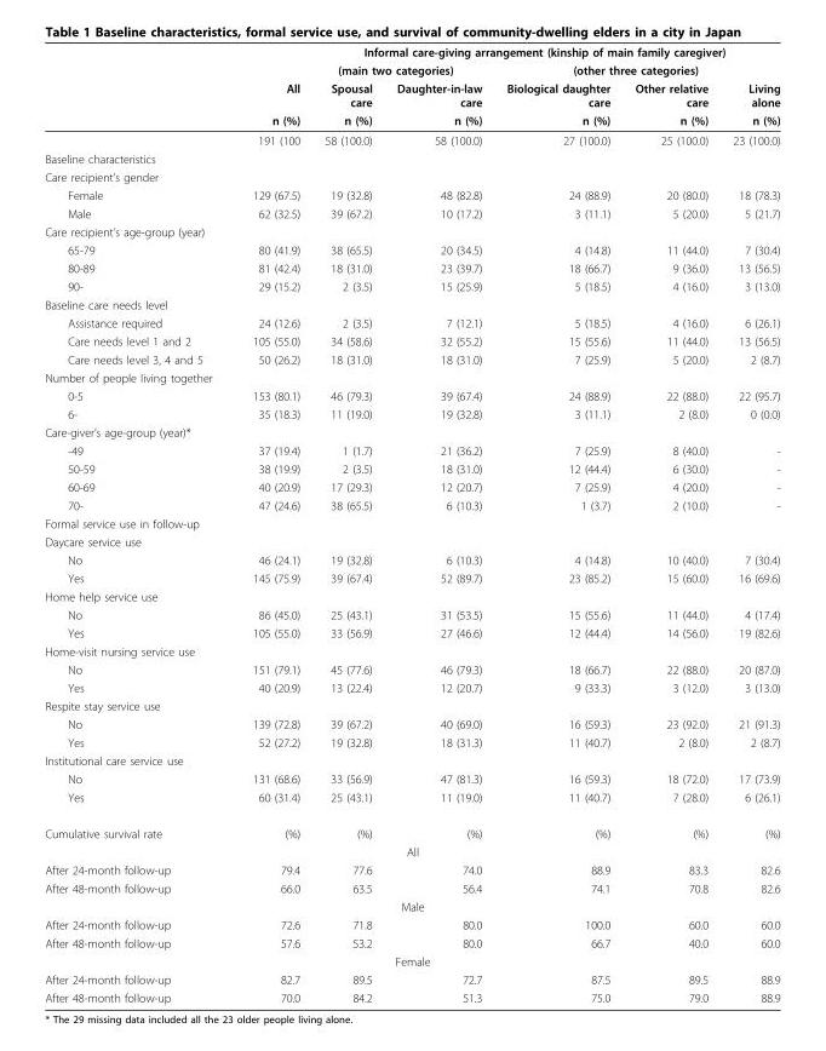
<table><thead><tr><td rowspan="4"></td><td rowspan="4">All n (%)</td><td colspan="5">Informal care-giving arrangement (kinship of main family caregiver)</td></tr><tr><td colspan="2">(main two categories)</td><td colspan="3">(other three categories)</td></tr><tr><td rowspan="2">Spousal care n (%)</td><td rowspan="2">Daughter-in-law care n (%)</td><td rowspan="2">Biological daughter care n (%)</td><td rowspan="2">Other relative care n (%)</td><td rowspan="2">Living alone n (%)</td></tr><tr></tr></thead><tbody><tr><td></td><td>191 (100</td><td>58 (100.0)</td><td>58 (100.0)</td><td>27 (100.0)</td><td>25 (100.0)</td><td>23 (100.0)</td></tr><tr><td colspan="7">Baseline characteristics</td></tr><tr><td colspan="7">Care recipient’s gender</td></tr><tr><td>Female</td><td>129 (67.5)</td><td>19 (32.8)</td><td>48 (82.8)</td><td>24 (88.9)</td><td>20 (80.0)</td><td>18 (78.3)</td></tr><tr><td>Male</td><td>62 (32.5)</td><td>39 (67.2)</td><td>10 (17.2)</td><td>3 (11.1)</td><td>5 (20.0)</td><td>5 (21.7)</td></tr><tr><td colspan="7">Care recipient’s age-group (year)</td></tr><tr><td>65-79</td><td>80 (41.9)</td><td>38 (65.5)</td><td>20 (34.5)</td><td>4 (14.8)</td><td>11 (44.0)</td><td>7 (30.4)</td></tr><tr><td>80-89</td><td>81 (42.4)</td><td>18 (31.0)</td><td>23 (39.7)</td><td>18 (66.7)</td><td>9 (36.0)</td><td>13 (56.5)</td></tr><tr><td>90-</td><td>29 (15.2)</td><td>2 (3.5)</td><td>15 (25.9)</td><td>5 (18.5)</td><td>4 (16.0)</td><td>3 (13.0)</td></tr><tr><td colspan="7">Baseline care needs level</td></tr><tr><td>Assistance required</td><td>24 (12.6)</td><td>2 (3.5)</td><td>7 (12.1)</td><td>5 (18.5)</td><td>4 (16.0)</td><td>6 (26.1)</td></tr><tr><td>Care needs level 1 and 2</td><td>105 (55.0)</td><td>34 (58.6)</td><td>32 (55.2)</td><td>15 (55.6)</td><td>11 (44.0)</td><td>13 (56.5)</td></tr><tr><td>Care needs level 3, 4 and 5</td><td>50 (26.2)</td><td>18 (31.0)</td><td>18 (31.0)</td><td>7 (25.9)</td><td>5 (20.0)</td><td>2 (8.7)</td></tr><tr><td colspan="7">Number of people living together</td></tr><tr><td>0-5</td><td>153 (80.1)</td><td>46 (79.3)</td><td>39 (67.4)</td><td>24 (88.9)</td><td>22 (88.0)</td><td>22 (95.7)</td></tr><tr><td>6-</td><td>35 (18.3)</td><td>11 (19.0)</td><td>19 (32.8)</td><td>3 (11.1)</td><td>2 (8.0)</td><td>0 (0.0)</td></tr><tr><td colspan="7">Care-giver’s age-group (year)*</td></tr><tr><td>-49</td><td>37 (19.4)</td><td>1 (1.7)</td><td>21 (36.2)</td><td>7 (25.9)</td><td>8 (40.0)</td><td>-</td></tr><tr><td>50-59</td><td>38 (19.9)</td><td>2 (3.5)</td><td>18 (31.0)</td><td>12 (44.4)</td><td>6 (30.0)</td><td>-</td></tr><tr><td>60-69</td><td>40 (20.9)</td><td>17 (29.3)</td><td>12 (20.7)</td><td>7 (25.9)</td><td>4 (20.0)</td><td>-</td></tr><tr><td>70-</td><td>47 (24.6)</td><td>38 (65.5)</td><td>6 (10.3)</td><td>1 (3.7)</td><td>2 (10.0)</td><td>-</td></tr><tr><td colspan="7">Formal service use in follow-up</td></tr><tr><td colspan="7">Daycare service use</td></tr><tr><td>No</td><td>46 (24.1)</td><td>19 (32.8)</td><td>6 (10.3)</td><td>4 (14.8)</td><td>10 (40.0)</td><td>7 (30.4)</td></tr><tr><td>Yes</td><td>145 (75.9)</td><td>39 (67.4)</td><td>52 (89.7)</td><td>23 (85.2)</td><td>15 (60.0)</td><td>16 (69.6)</td></tr><tr><td colspan="7">Home help service use</td></tr><tr><td>No</td><td>86 (45.0)</td><td>25 (43.1)</td><td>31 (53.5)</td><td>15 (55.6)</td><td>11 (44.0)</td><td>4 (17.4)</td></tr><tr><td>Yes</td><td>105 (55.0)</td><td>33 (56.9)</td><td>27 (46.6)</td><td>12 (44.4)</td><td>14 (56.0)</td><td>19 (82.6)</td></tr><tr><td colspan="7">Home-visit nursing service use</td></tr><tr><td>No</td><td>151 (79.1)</td><td>45 (77.6)</td><td>46 (79.3)</td><td>18 (66.7)</td><td>22 (88.0)</td><td>20 (87.0)</td></tr><tr><td>Yes</td><td>40 (20.9)</td><td>13 (22.4)</td><td>12 (20.7)</td><td>9 (33.3)</td><td>3 (12.0)</td><td>3 (13.0)</td></tr><tr><td colspan="7">Respite stay service use</td></tr><tr><td>No</td><td>139 (72.8)</td><td>39 (67.2)</td><td>40 (69.0)</td><td>16 (59.3)</td><td>23 (92.0)</td><td>21 (91.3)</td></tr><tr><td>Yes</td><td>52 (27.2)</td><td>19 (32.8)</td><td>18 (31.3)</td><td>11 (40.7)</td><td>2 (8.0)</td><td>2 (8.7)</td></tr><tr><td colspan="7">Institutional care service use</td></tr><tr><td>No</td><td>131 (68.6)</td><td>33 (56.9)</td><td>47 (81.3)</td><td>16 (59.3)</td><td>18 (72.0)</td><td>17 (73.9)</td></tr><tr><td>Yes</td><td>60 (31.4)</td><td>25 (43.1)</td><td>11 (19.0)</td><td>11 (40.7)</td><td>7 (28.0)</td><td>6 (26.1)</td></tr><tr><td>Cumulative survival rate</td><td>(%)</td><td>(%)</td><td>(%)</td><td>(%)</td><td>(%)</td><td>(%)</td></tr><tr><td colspan="7">All</td></tr><tr><td>After 24-month follow-up</td><td>79.4</td><td>77.6</td><td>74.0</td><td>88.9</td><td>83.3</td><td>82.6</td></tr><tr><td>After 48-month follow-up</td><td>66.0</td><td>63.5</td><td>56.4</td><td>74.1</td><td>70.8</td><td>82.6</td></tr><tr><td colspan="7">Male</td></tr><tr><td>After 24-month follow-up</td><td>72.6</td><td>71.8</td><td>80.0</td><td>100.0</td><td>60.0</td><td>60.0</td></tr><tr><td>After 48-month follow-up</td><td>57.6</td><td>53.2</td><td>80.0</td><td>66.7</td><td>40.0</td><td>60.0</td></tr><tr><td colspan="7">Female</td></tr><tr><td>After 24-month follow-up</td><td>82.7</td><td>89.5</td><td>72.7</td><td>87.5</td><td>89.5</td><td>88.9</td></tr><tr><td>After 48-month follow-up</td><td>70.0</td><td>84.2</td><td>51.3</td><td>75.0</td><td>79.0</td><td>88.9</td></tr></tbody></table>